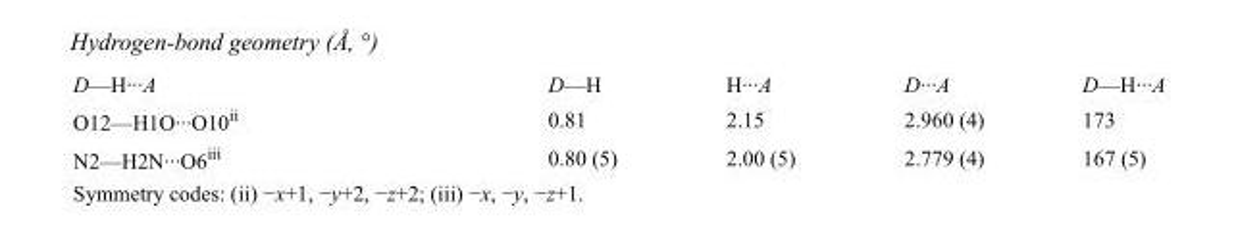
<table><tbody><tr><td>D—H···A</td><td>D—H</td><td>H···A</td><td>D···A</td><td>D—H···A</td></tr><tr><td>O12—H1O···O10<sup>ii</sup></td><td>0.81</td><td>2.15</td><td>2.960 (4)</td><td>173</td></tr><tr><td>N2—H2N···O6<sup>iii</sup></td><td>0.80 (5)</td><td>2.00 (5)</td><td>2.779 (4)</td><td>167 (5)</td></tr></tbody></table>